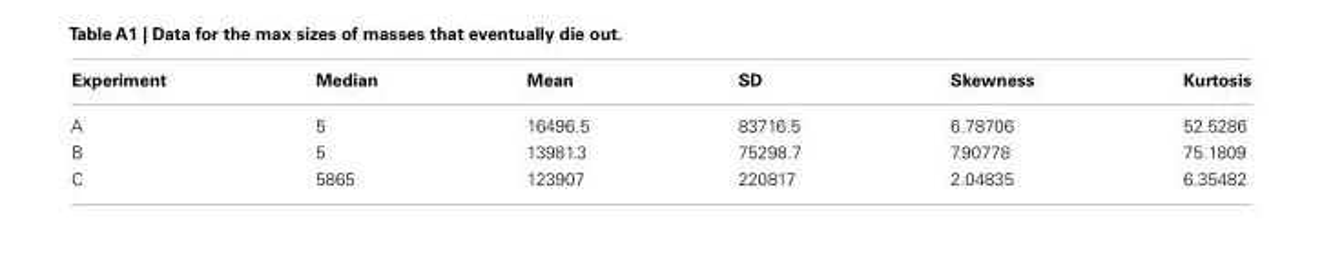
<table><thead><tr><td>Experiment</td><td>Median</td><td>Mean</td><td>SD</td><td>Skewness</td><td>Kurtosis</td></tr></thead><tbody><tr><td>A</td><td>5</td><td>16496.5</td><td>83716.5</td><td>6.78706</td><td>52.5286</td></tr><tr><td>B</td><td>5</td><td>13981.3</td><td>75298.7</td><td>7.90778</td><td>75.1809</td></tr><tr><td>C</td><td>5865</td><td>123907</td><td>220817</td><td>2.04835</td><td>6.35482</td></tr></tbody></table>